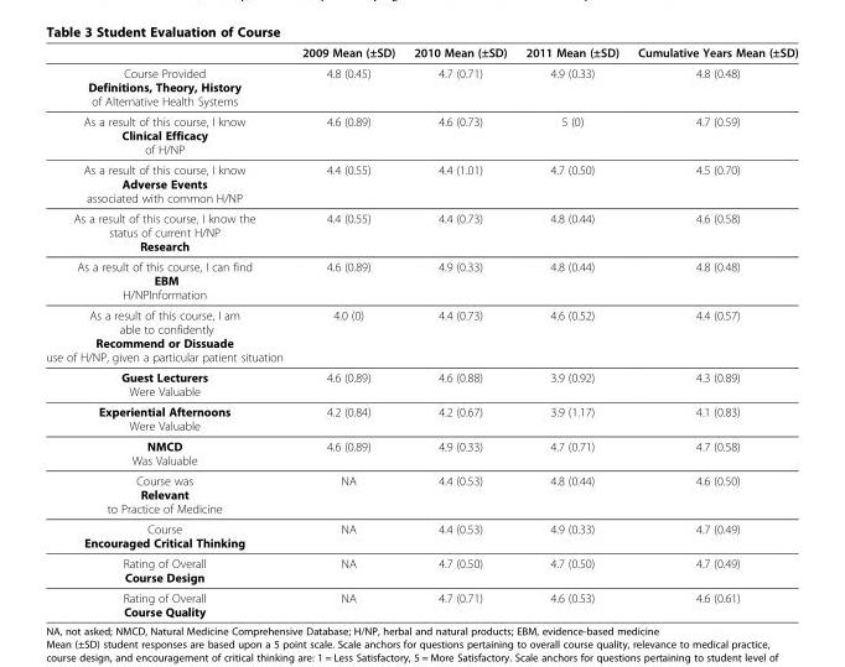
<table><thead><tr><td></td><td>2009 Mean (±SD)</td><td>2010 Mean (±SD)</td><td>2011 Mean (±SD)</td><td>Cumulative Years Mean (±SD)</td></tr></thead><tbody><tr><td>Course Provided Definitions, Theory, History of Alternative Health Systems</td><td>4.8 (0.45)</td><td>4.7 (0.71)</td><td>4.9 (0.33)</td><td>4.8 (0.48)</td></tr><tr><td>As a result of this course, I know Clinical Efficacy of H/NP</td><td>4.6 (0.89)</td><td>4.6 (0.73)</td><td>5 (0)</td><td>4.7 (0.59)</td></tr><tr><td>As a result of this course, I know Adverse Events associated with common H/NP</td><td>4.4 (0.55)</td><td>4.4 (1.01)</td><td>4.7 (0.50)</td><td>4.5 (0.70)</td></tr><tr><td>As a result of this course, I know the status of current H/NP Research</td><td>4.4 (0.55)</td><td>4.4 (0.73)</td><td>4.8 (0.44)</td><td>4.6 (0.58)</td></tr><tr><td>As a result of this course, I can find EBM H/NPInformation</td><td>4.6 (0.89)</td><td>4.9 (0.33)</td><td>4.8 (0.44)</td><td>4.8 (0.48)</td></tr><tr><td>As a result of this course, I am able to confidently Recommend or Dissuade use of H/NP, given a particular patient situation</td><td>4.0 (0)</td><td>4.4 (0.73)</td><td>4.6 (0.52)</td><td>4.4 (0.57)</td></tr><tr><td>Guest Lecturers Were Valuable</td><td>4.6 (0.89)</td><td>4.6 (0.88)</td><td>3.9 (0.92)</td><td>4.3 (0.89)</td></tr><tr><td>Experiential Afternoons Were Valuable</td><td>4.2 (0.84)</td><td>4.2 (0.67)</td><td>3.9 (1.17)</td><td>4.1 (0.83)</td></tr><tr><td>NMCD Was Valuable</td><td>4.6 (0.89)</td><td>4.9 (0.33)</td><td>4.7 (0.71)</td><td>4.7 (0.58)</td></tr><tr><td>Course was Relevant to Practice of Medicine</td><td>NA</td><td>4.4 (0.53)</td><td>4.8 (0.44)</td><td>4.6 (0.50)</td></tr><tr><td>Course Encouraged Critical Thinking</td><td>NA</td><td>4.4 (0.53)</td><td>4.9 (0.33)</td><td>4.7 (0.49)</td></tr><tr><td>Rating of Overall Course Design</td><td>NA</td><td>4.7 (0.50)</td><td>4.7 (0.50)</td><td>4.7 (0.49)</td></tr><tr><td>Rating of Overall Course Quality</td><td>NA</td><td>4.7 (0.71)</td><td>4.6 (0.53)</td><td>4.6 (0.61)</td></tr></tbody></table>